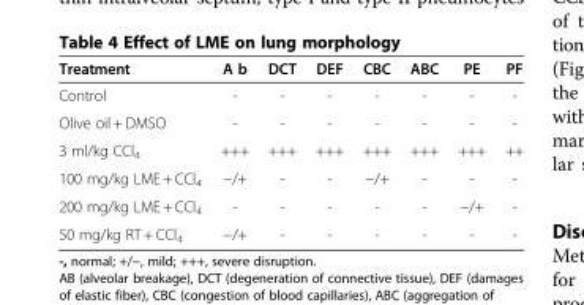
<table><thead><tr><td>Treatment</td><td>A b</td><td>DCT</td><td>DEF</td><td>CBC</td><td>ABC</td><td>PE</td><td>PF</td></tr></thead><tbody><tr><td>Control</td><td>-</td><td>-</td><td>-</td><td>-</td><td>-</td><td>-</td><td>-</td></tr><tr><td>Olive oil + DMSO</td><td>-</td><td>-</td><td>-</td><td>-</td><td>-</td><td>-</td><td>-</td></tr><tr><td>3 ml/kg CCl<sub>4</sub></td><td>+++</td><td>+++</td><td>+++</td><td>+++</td><td>+++</td><td>+++</td><td>++</td></tr><tr><td>100 mg/kg LME + CCl<sub>4</sub></td><td>−/+</td><td>-</td><td>-</td><td>−/+</td><td>-</td><td>-</td><td>-</td></tr><tr><td>200 mg/kg LME + CCl<sub>4</sub></td><td>-</td><td>-</td><td>-</td><td>-</td><td>-</td><td>−/+</td><td>-</td></tr><tr><td>50 mg/kg RT + CCl<sub>4</sub></td><td>−/+</td><td>-</td><td>-</td><td>-</td><td>-</td><td>-</td><td>-</td></tr></tbody></table>